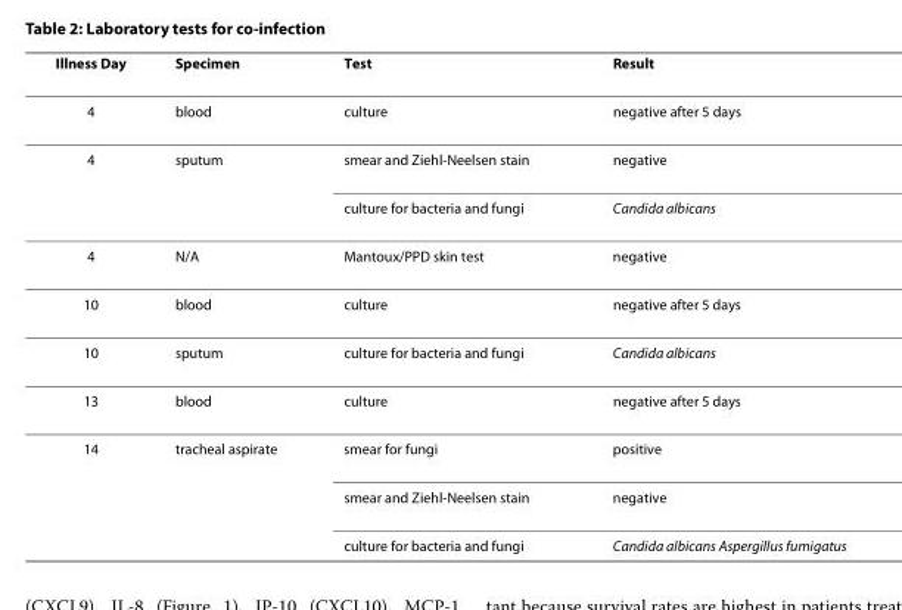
<table><thead><tr><td>Illness Day</td><td>Specimen</td><td>Test</td><td>Result</td></tr></thead><tbody><tr><td>4</td><td>blood</td><td>culture</td><td>negative after 5 days</td></tr><tr><td rowspan="2">4</td><td>sputum</td><td>smear and Ziehl-Neelsen stain</td><td>negative</td></tr><tr><td></td><td>culture for bacteria and fungi</td><td>Candida albicans</td></tr><tr><td>4</td><td>N/A</td><td>Mantoux/PPD skin test</td><td>negative</td></tr><tr><td>10</td><td>blood</td><td>culture</td><td>negative after 5 days</td></tr><tr><td>10</td><td>sputum</td><td>culture for bacteria and fungi</td><td>Candida albicans</td></tr><tr><td>13</td><td>blood</td><td>culture</td><td>negative after 5 days</td></tr><tr><td rowspan="3">14</td><td>tracheal aspirate</td><td>smear for fungi</td><td>positive</td></tr><tr><td></td><td>smear and Ziehl-Neelsen stain</td><td>negative</td></tr><tr><td></td><td>culture for bacteria and fungi</td><td>Candida albicans Aspergillus fumigatus</td></tr></tbody></table>